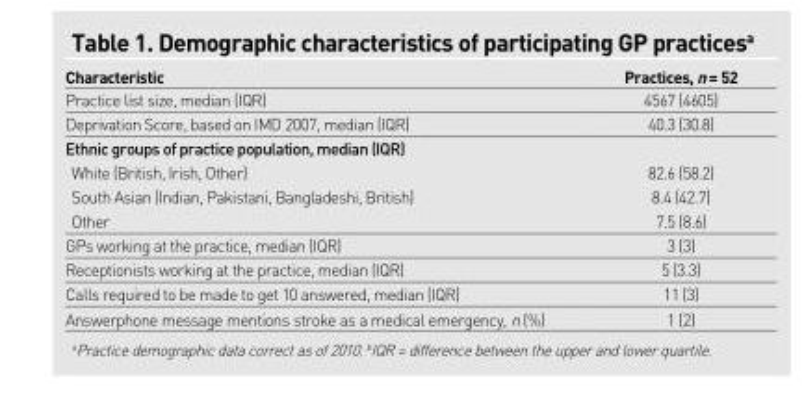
<table><thead><tr><td>Characteristic</td><td>Practices, n = 52</td></tr></thead><tbody><tr><td>Practice list size, median (IQR)</td><td>4567 (4605)</td></tr><tr><td>Deprivation Score, based on IMD 2007, median (IQR)</td><td>40.3 (30.8)</td></tr><tr><td colspan="2">Ethnic groups of practice population, median (IQR)</td></tr><tr><td>White (British, Irish, Other)</td><td>82.6 (58.2)</td></tr><tr><td>South Asian (Indian, Pakistani, Bangladeshi, British)</td><td>8.4 (42.7)</td></tr><tr><td>Other</td><td>7.5 (8.6)</td></tr><tr><td>GPs working at the practice, median (IQR)</td><td>3 (3)</td></tr><tr><td>Receptionists working at the practice, median (IQR)</td><td>5 (3.3)</td></tr><tr><td>Calls required to be made to get 10 answered, median (IQR)</td><td>11 (3)</td></tr><tr><td>Answerphone message mentions stroke as a medical emergency, n (%)</td><td>1 (2)</td></tr></tbody></table>